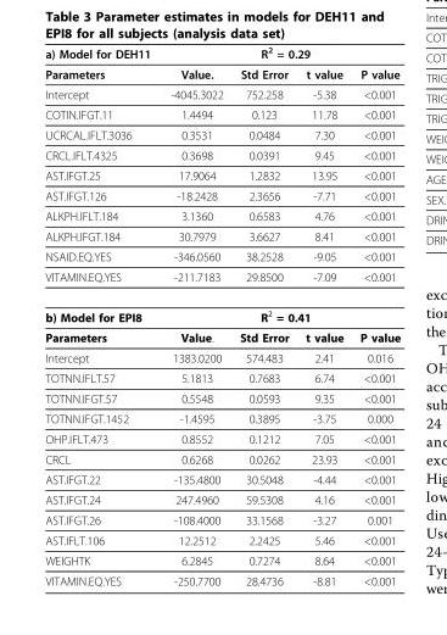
<table><thead><tr><td rowspan="2">a) Model for DEH11 Parameters</td><td colspan="4">R2 = 0.29</td></tr><tr><td>Value.</td><td>Std Error</td><td>t value</td><td>P value</td></tr></thead><tbody><tr><td>Intercept</td><td>-4045.3022</td><td>752.258</td><td>-5.38</td><td>&lt;0.001</td></tr><tr><td>COTIN.IFGT.11</td><td>1.4494</td><td>0.123</td><td>11.78</td><td>&lt;0.001</td></tr><tr><td>UCRCAL.IFLT.3036</td><td>0.3531</td><td>0.0484</td><td>7.30</td><td>&lt;0.001</td></tr><tr><td>CRCL.IFLT.4325</td><td>0.3698</td><td>0.0391</td><td>9.45</td><td>&lt;0.001</td></tr><tr><td>AST.IFGT.25</td><td>17.9064</td><td>1.2832</td><td>13.95</td><td>&lt;0.001</td></tr><tr><td>AST.IFGT.126</td><td>-18.2428</td><td>2.3656</td><td>-7.71</td><td>&lt;0.001</td></tr><tr><td>ALKPH.IFLT.184</td><td>3.1360</td><td>0.6583</td><td>4.76</td><td>&lt;0.001</td></tr><tr><td>ALKPH.IFGT.184</td><td>30.7979</td><td>3.6627</td><td>8.41</td><td>&lt;0.001</td></tr><tr><td>NSAID.EQ.YES</td><td>-346.0560</td><td>38.2528</td><td>-9.05</td><td>&lt;0.001</td></tr><tr><td>VITAMIN.EQ.YES</td><td>-211.7183</td><td>29.8500</td><td>-7.09</td><td>&lt;0.001</td></tr><tr><td>b) Model for EPI8</td><td colspan="4">R2 = 0.41</td></tr><tr><td>Parameters</td><td>Value.</td><td>Std Error</td><td>t value</td><td>P value</td></tr><tr><td>Intercept</td><td>1383.0200</td><td>574.483</td><td>2.41</td><td>0.016</td></tr><tr><td>TOTNN.IFLT.57</td><td>5.1813</td><td>0.7683</td><td>6.74</td><td>&lt;0.001</td></tr><tr><td>TOTNN.IFGT.57</td><td>0.5548</td><td>0.0593</td><td>9.35</td><td>&lt;0.001</td></tr><tr><td>TOTNN.IFGT.1452</td><td>-1.4595</td><td>0.3895</td><td>-3.75</td><td>0.000</td></tr><tr><td>OHP.IFLT.473</td><td>0.8552</td><td>0.1212</td><td>7.05</td><td>&lt;0.001</td></tr><tr><td>CRCL</td><td>0.6268</td><td>0.0262</td><td>23.93</td><td>&lt;0.001</td></tr><tr><td>AST.IFGT.22</td><td>-135.4800</td><td>30.5048</td><td>-4.44</td><td>&lt;0.001</td></tr><tr><td>AST.IFGT.24</td><td>247.4960</td><td>59.5308</td><td>4.16</td><td>&lt;0.001</td></tr><tr><td>AST.IFGT.26</td><td>-108.4000</td><td>33.1568</td><td>-3.27</td><td>0.001</td></tr><tr><td>AST.IFLT.106</td><td>12.2512</td><td>2.2425</td><td>5.46</td><td>&lt;0.001</td></tr><tr><td>WEIGHTK</td><td>6.2845</td><td>0.7274</td><td>8.64</td><td>&lt;0.001</td></tr><tr><td>VITAMIN.EQ.YES</td><td>-250.7700</td><td>28.4736</td><td>-8.81</td><td>&lt;0.001</td></tr></tbody></table>